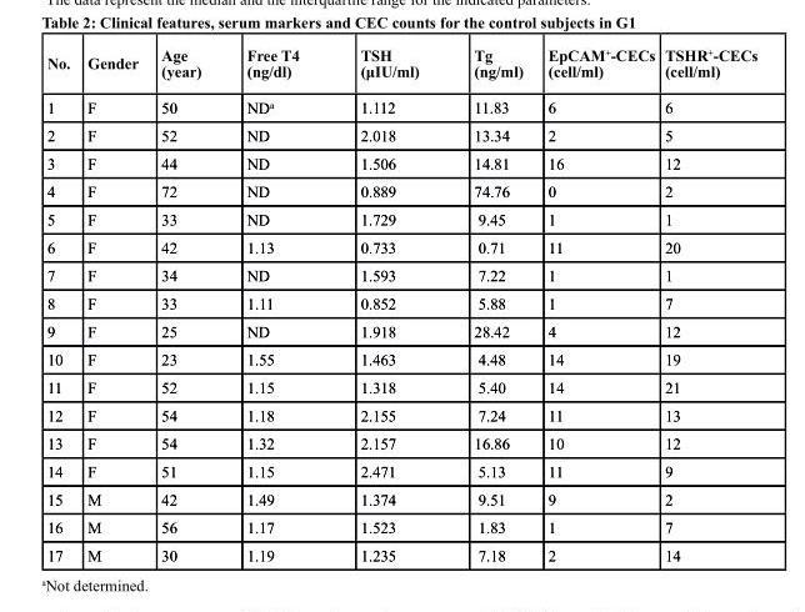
<table><thead><tr><td>No.</td><td>Gender</td><td>Age (year)</td><td>Free t4 (ng/dl)</td><td>tsH (μIU/ml)</td><td>tg (ng/ml)</td><td>EpcAM<sup>+</sup>-cEcs (cell/ml)</td><td>tsHr<sup>+</sup>-cEcs (cell/ml)</td></tr></thead><tbody><tr><td>1</td><td>F</td><td>50</td><td>ND<sup>a</sup></td><td>1.112</td><td>11.83</td><td>6</td><td>6</td></tr><tr><td>2</td><td>F</td><td>52</td><td>ND</td><td>2.018</td><td>13.34</td><td>2</td><td>5</td></tr><tr><td>3</td><td>F</td><td>44</td><td>ND</td><td>1.506</td><td>14.81</td><td>16</td><td>12</td></tr><tr><td>4</td><td>F</td><td>72</td><td>ND</td><td>0.889</td><td>74.76</td><td>0</td><td>2</td></tr><tr><td>5</td><td>F</td><td>33</td><td>ND</td><td>1.729</td><td>9.45</td><td>1</td><td>1</td></tr><tr><td>6</td><td>F</td><td>42</td><td>1.13</td><td>0.733</td><td>0.71</td><td>11</td><td>20</td></tr><tr><td>7</td><td>F</td><td>34</td><td>ND</td><td>1.593</td><td>7.22</td><td>1</td><td>1</td></tr><tr><td>8</td><td>F</td><td>33</td><td>1.11</td><td>0.852</td><td>5.88</td><td>1</td><td>7</td></tr><tr><td>9</td><td>F</td><td>25</td><td>ND</td><td>1.918</td><td>28.42</td><td>4</td><td>12</td></tr><tr><td>10</td><td>F</td><td>23</td><td>1.55</td><td>1.463</td><td>4.48</td><td>14</td><td>19</td></tr><tr><td>11</td><td>F</td><td>52</td><td>1.15</td><td>1.318</td><td>5.40</td><td>14</td><td>21</td></tr><tr><td>12</td><td>F</td><td>54</td><td>1.18</td><td>2.155</td><td>7.24</td><td>11</td><td>13</td></tr><tr><td>13</td><td>F</td><td>54</td><td>1.32</td><td>2.157</td><td>16.86</td><td>10</td><td>12</td></tr><tr><td>14</td><td>F</td><td>51</td><td>1.15</td><td>2.471</td><td>5.13</td><td>11</td><td>9</td></tr><tr><td>15</td><td>M</td><td>42</td><td>1.49</td><td>1.374</td><td>9.51</td><td>9</td><td>2</td></tr><tr><td>16</td><td>M</td><td>56</td><td>1.17</td><td>1.523</td><td>1.83</td><td>1</td><td>7</td></tr><tr><td>17</td><td>M</td><td>30</td><td>1.19</td><td>1.235</td><td>7.18</td><td>2</td><td>14</td></tr></tbody></table>